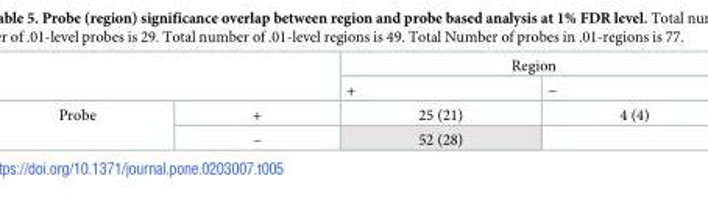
<table><thead><tr><td rowspan="2"></td><td rowspan="2"></td><td colspan="2">Region</td></tr><tr><td>+</td><td>−</td></tr></thead><tbody><tr><td rowspan="2">Probe</td><td>+</td><td>25 (21)</td><td>4 (4)</td></tr><tr><td>−</td><td>52 (28)</td><td></td></tr></tbody></table>